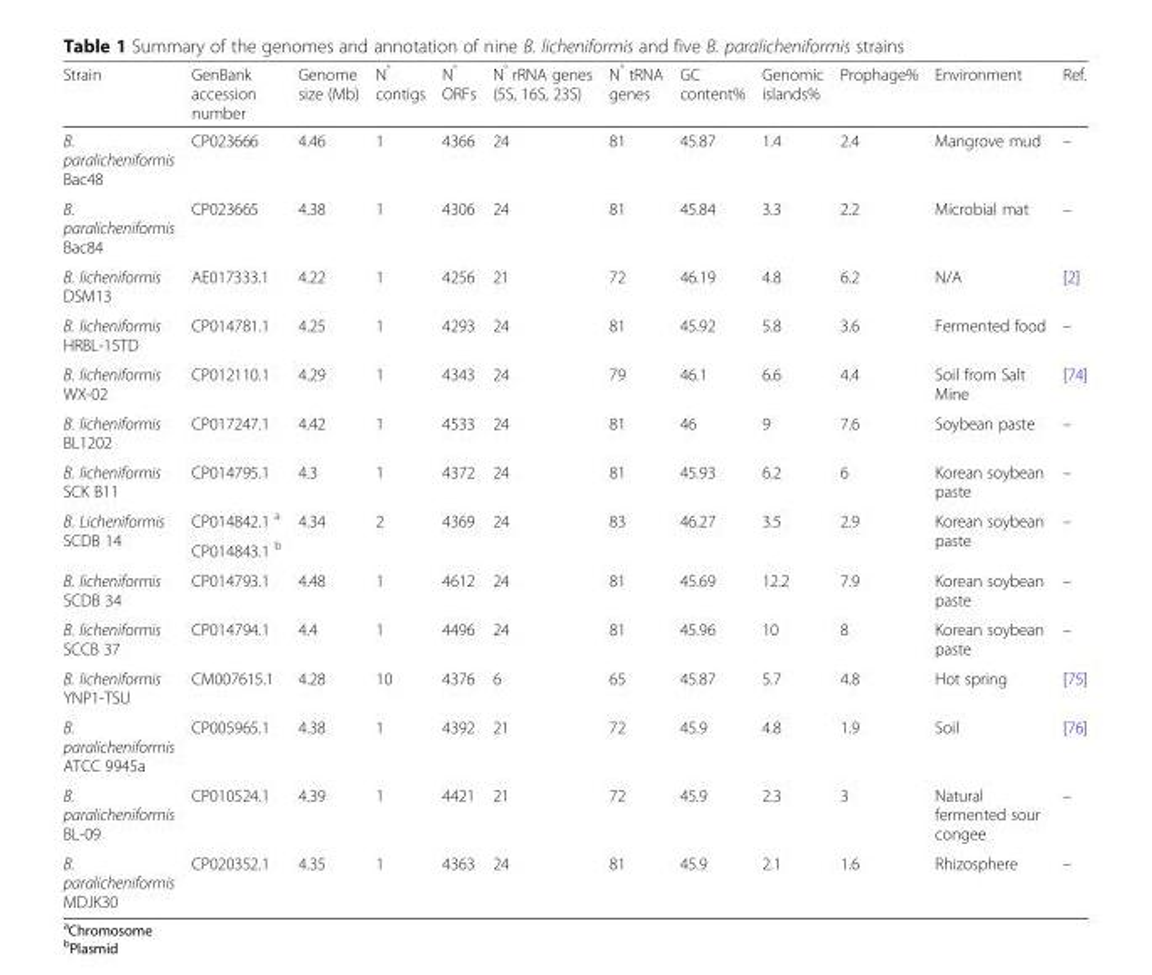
<table><thead><tr><td>Strain</td><td>GenBank accession number</td><td>Genome size (Mb)</td><td>N<sup>°</sup> contigs</td><td>N<sup>°</sup> ORFs</td><td>N<sup>°</sup> rRNA genes (5S, 16S, 23S)</td><td>N<sup>°</sup> tRNA genes</td><td>GC content%</td><td>Genomic islands%</td><td>Prophage%</td><td>Environment</td><td>Ref.</td></tr></thead><tbody><tr><td>B. paralicheniformis Bac48</td><td>CP023666</td><td>4.46</td><td>1</td><td>4366</td><td>24</td><td>81</td><td>45.87</td><td>1.4</td><td>2.4</td><td>Mangrove mud</td><td>–</td></tr><tr><td>B. paralicheniformis Bac84</td><td>CP023665</td><td>4.38</td><td>1</td><td>4306</td><td>24</td><td>81</td><td>45.84</td><td>3.3</td><td>2.2</td><td>Microbial mat</td><td>–</td></tr><tr><td>B. licheniformis DSM13</td><td>AE017333.1</td><td>4.22</td><td>1</td><td>4256</td><td>21</td><td>72</td><td>46.19</td><td>4.8</td><td>6.2</td><td>N/A</td><td>[2]</td></tr><tr><td>B. licheniformis HRBL-15TD</td><td>CP014781.1</td><td>4.25</td><td>1</td><td>4293</td><td>24</td><td>81</td><td>45.92</td><td>5.8</td><td>3.6</td><td>Fermented food</td><td>–</td></tr><tr><td>B. licheniformis WX-02</td><td>CP012110.1</td><td>4.29</td><td>1</td><td>4343</td><td>24</td><td>79</td><td>46.1</td><td>6.6</td><td>4.4</td><td>Soil from Salt Mine</td><td>[74]</td></tr><tr><td>B. licheniformis BL1202</td><td>CP017247.1</td><td>4.42</td><td>1</td><td>4533</td><td>24</td><td>81</td><td>46</td><td>9</td><td>7.6</td><td>Soybean paste</td><td>–</td></tr><tr><td>B. licheniformis SCK B11</td><td>CP014795.1</td><td>4.3</td><td>1</td><td>4372</td><td>24</td><td>81</td><td>45.93</td><td>6.2</td><td>6</td><td>Korean soybean paste</td><td>–</td></tr><tr><td rowspan="2">B. Licheniformis SCDB 14</td><td>CP014842.1 <sup>a</sup></td><td rowspan="2">4.34</td><td rowspan="2">2</td><td rowspan="2">4369</td><td rowspan="2">24</td><td rowspan="2">83</td><td rowspan="2">46.27</td><td rowspan="2">3.5</td><td rowspan="2">2.9</td><td rowspan="2">Korean soybean paste</td><td>–</td></tr><tr><td>CP014843.1 <sup>b</sup></td><td></td></tr><tr><td>B. licheniformis SCDB 34</td><td>CP014793.1</td><td>4.48</td><td>1</td><td>4612</td><td>24</td><td>81</td><td>45.69</td><td>12.2</td><td>7.9</td><td>Korean soybean paste</td><td>–</td></tr><tr><td>B. licheniformis SCCB 37</td><td>CP014794.1</td><td>4.4</td><td>1</td><td>4496</td><td>24</td><td>81</td><td>45.96</td><td>10</td><td>8</td><td>Korean soybean paste</td><td>–</td></tr><tr><td>B. licheniformis YNP1-TSU</td><td>CM007615.1</td><td>4.28</td><td>10</td><td>4376</td><td>6</td><td>65</td><td>45.87</td><td>5.7</td><td>4.8</td><td>Hot spring</td><td>[75]</td></tr><tr><td>B. paralicheniformis ATCC 9945a</td><td>CP005965.1</td><td>4.38</td><td>1</td><td>4392</td><td>21</td><td>72</td><td>45.9</td><td>4.8</td><td>1.9</td><td>Soil</td><td>[76]</td></tr><tr><td>B. paralicheniformis BL-09</td><td>CP010524.1</td><td>4.39</td><td>1</td><td>4421</td><td>21</td><td>72</td><td>45.9</td><td>2.3</td><td>3</td><td>Natural fermented sour congee</td><td>–</td></tr><tr><td>B. paralicheniformis MDJK30</td><td>CP020352.1</td><td>4.35</td><td>1</td><td>4363</td><td>24</td><td>81</td><td>45.9</td><td>2.1</td><td>1.6</td><td>Rhizosphere</td><td>–</td></tr></tbody></table>